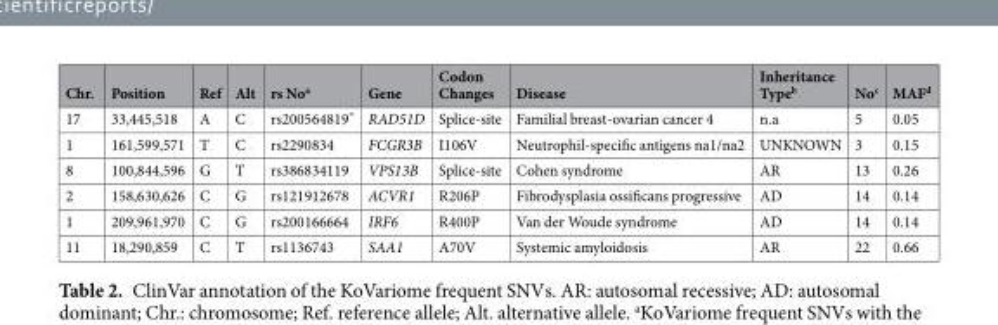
<table><thead><tr><td>Chr.</td><td>Position</td><td>Ref</td><td>Alt</td><td>rs No<sup>a</sup></td><td>Gene</td><td>Codon Changes</td><td>Disease</td><td>Inheritance Type<sup>b</sup></td><td>No<sup>c</sup></td><td>MAF<sup>d</sup></td></tr></thead><tbody><tr><td>17</td><td>33,445,518</td><td>A</td><td>C</td><td>rs200564819*</td><td>RAD51D</td><td>Splice-site</td><td>Familial breast-ovarian cancer 4</td><td>n.a</td><td>5</td><td>0.05</td></tr><tr><td>1</td><td>161,599,571</td><td>T</td><td>C</td><td>rs2290834</td><td>FCGR3B</td><td>I106V</td><td>Neutrophil-specific antigens na1/na2</td><td>UNKNOWN</td><td>3</td><td>0.15</td></tr><tr><td>8</td><td>100,844,596</td><td>G</td><td>T</td><td>rs386834119</td><td>VPS13B</td><td>Splice-site</td><td>Cohen syndrome</td><td>AR</td><td>13</td><td>0.26</td></tr><tr><td>2</td><td>158,630,626</td><td>C</td><td>G</td><td>rs121912678</td><td>ACVR1</td><td>R206P</td><td>Fibrodysplasia ossificans progressive</td><td>AD</td><td>14</td><td>0.14</td></tr><tr><td>1</td><td>209,961,970</td><td>C</td><td>G</td><td>rs200166664</td><td>IRF6</td><td>R400P</td><td>Van der Woude syndrome</td><td>AD</td><td>14</td><td>0.14</td></tr><tr><td>11</td><td>18,290,859</td><td>C</td><td>T</td><td>rs1136743</td><td>SAA1</td><td>A70V</td><td>Systemic amyloidosis</td><td>AR</td><td>22</td><td>0.66</td></tr></tbody></table>